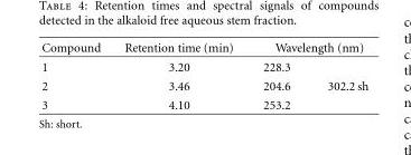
<table><thead><tr><td rowspan="2">Compound 1</td><td rowspan="2">Retention time (min) 3.20</td><td colspan="2">Wavelength (nm)</td></tr><tr><td>228.3</td><td></td></tr></thead><tbody><tr><td>2</td><td>3.46</td><td>204.6</td><td>302.2 sh</td></tr><tr><td>3</td><td>4.10</td><td>253.2</td><td></td></tr></tbody></table>